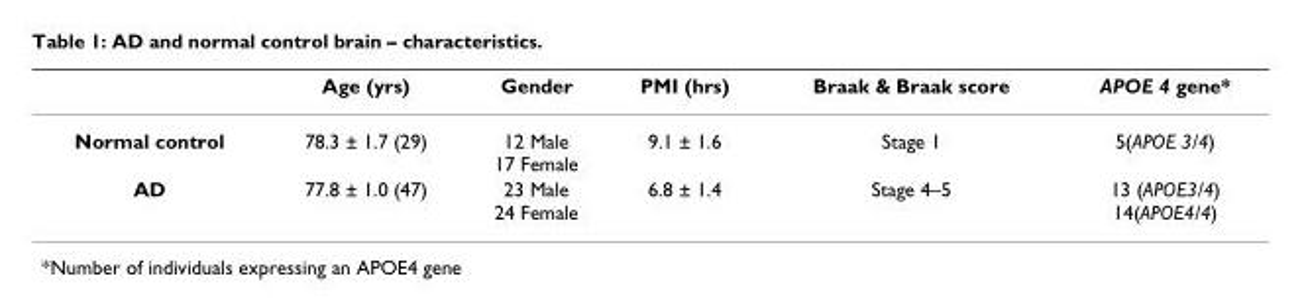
<table><thead><tr><td></td><td>Age (yrs)</td><td>Gender</td><td>PMI (hrs)</td><td>Braak &amp; Braak score</td><td>APOE 4 gene*</td></tr></thead><tbody><tr><td>Normal control</td><td>78.3 ± 1.7 (29)</td><td>12 Male 17 Female</td><td>9.1 ± 1.6</td><td>Stage 1</td><td>5(APOE 3/4)</td></tr><tr><td>AD</td><td>77.8 ± 1.0 (47)</td><td>23 Male 24 Female</td><td>6.8 ± 1.4</td><td>Stage 4–5</td><td>13 (APOE3/4) 14(APOE4/4)</td></tr></tbody></table>